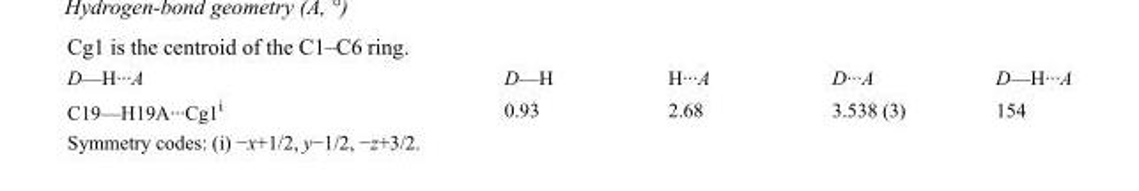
<table><tbody><tr><td>D—H···A</td><td>D—H</td><td>H···A</td><td>D···A</td><td>D—H···A</td></tr><tr><td>C19—H19A···Cg1<sup>i</sup></td><td>0.93</td><td>2.68</td><td>3.538 (3)</td><td>154</td></tr></tbody></table>